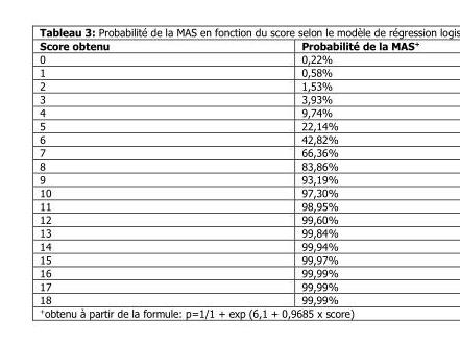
<table><thead><tr><td>Score obtenu</td><td>Probabilité de la MAS<sup>+</sup></td></tr></thead><tbody><tr><td>0</td><td>0,22%</td></tr><tr><td>1</td><td>0,58%</td></tr><tr><td>2</td><td>1,53%</td></tr><tr><td>3</td><td>3,93%</td></tr><tr><td>4</td><td>9,74%</td></tr><tr><td>5</td><td>22,14%</td></tr><tr><td>6</td><td>42,82%</td></tr><tr><td>7</td><td>66,36%</td></tr><tr><td>8</td><td>83,86%</td></tr><tr><td>9</td><td>93,19%</td></tr><tr><td>10</td><td>97,30%</td></tr><tr><td>11</td><td>98,95%</td></tr><tr><td>12</td><td>99,60%</td></tr><tr><td>13</td><td>99,84%</td></tr><tr><td>14</td><td>99,94%</td></tr><tr><td>15</td><td>99,97%</td></tr><tr><td>16</td><td>99,99%</td></tr><tr><td>17</td><td>99,99%</td></tr><tr><td>18</td><td>99,99%</td></tr></tbody></table>